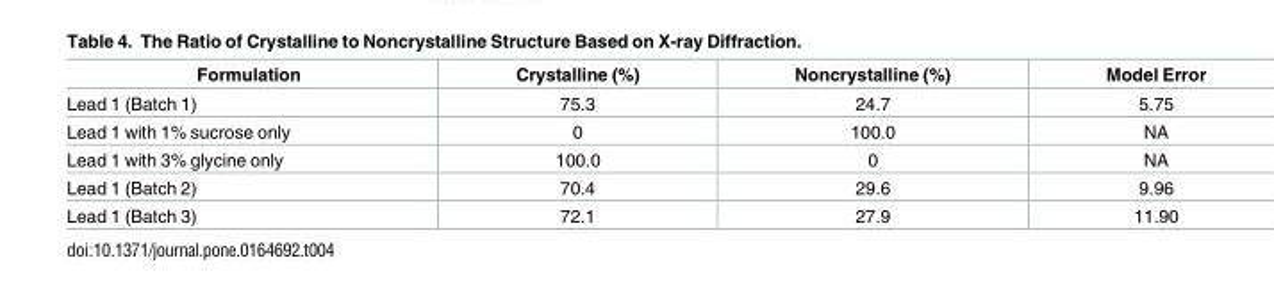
<table><thead><tr><td>Formulation</td><td>Crystalline (%)</td><td>Noncrystalline (%)</td><td>Model Error</td></tr></thead><tbody><tr><td>Lead 1 (Batch 1)</td><td>75.3</td><td>24.7</td><td>5.75</td></tr><tr><td>Lead 1 with 1% sucrose only</td><td>0</td><td>100.0</td><td>NA</td></tr><tr><td>Lead 1 with 3% glycine only</td><td>100.0</td><td>0</td><td>NA</td></tr><tr><td>Lead 1 (Batch 2)</td><td>70.4</td><td>29.6</td><td>9.96</td></tr><tr><td>Lead 1 (Batch 3)</td><td>72.1</td><td>27.9</td><td>11.90</td></tr></tbody></table>